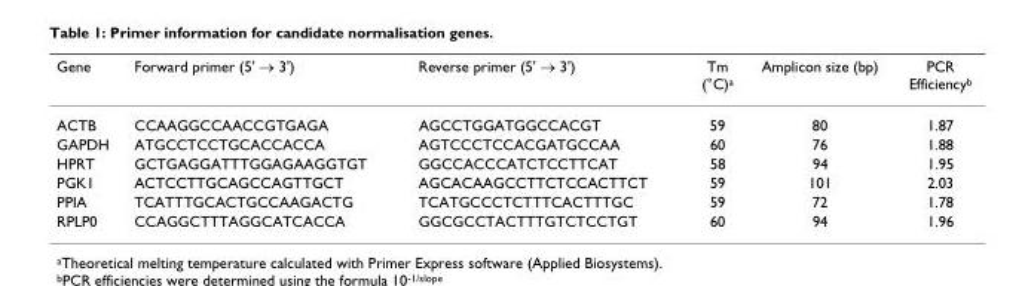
<table><thead><tr><td>Gene</td><td>Forward primer (5&#x27; → 3&#x27;)</td><td>Reverse primer (5&#x27; → 3&#x27;)</td><td>Tm (°C)<sup>a</sup></td><td>Amplicon size (bp)</td><td>PCR Efficiency<sup>b</sup></td></tr></thead><tbody><tr><td>ACTB</td><td>CCAAGGCCAACCGTGAGA</td><td>AGCCTGGATGGCCACGT</td><td>59</td><td>80</td><td>1.87</td></tr><tr><td>GAPDH</td><td>ATGCCTCCTGCACCACCA</td><td>AGTCCCTCCACGATGCCAA</td><td>60</td><td>76</td><td>1.88</td></tr><tr><td>HPRT</td><td>GCTGAGGATTTGGAGAAGGTGT</td><td>GGCCACCCATCTCCTTCAT</td><td>58</td><td>94</td><td>1.95</td></tr><tr><td>PGK1</td><td>ACTCCTTGCAGCCAGTTGCT</td><td>AGCACAAGCCTTCTCCACTTCT</td><td>59</td><td>101</td><td>2.03</td></tr><tr><td>PPIA</td><td>TCATTTGCACTGCCAAGACTG</td><td>TCATGCCCTCTTTCACTTTGC</td><td>59</td><td>72</td><td>1.78</td></tr><tr><td>RPLP0</td><td>CCAGGCTTTAGGCATCACCA</td><td>GGCGCCTACTTTGTCTCCTGT</td><td>60</td><td>94</td><td>1.96</td></tr></tbody></table>